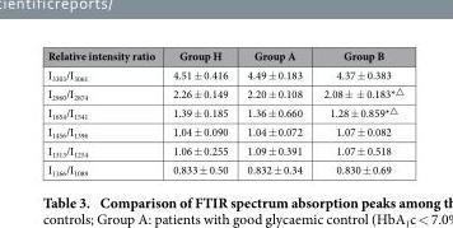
<table><thead><tr><td>Relative intensity ratio</td><td>Group H</td><td>Group A</td><td>Group B</td></tr></thead><tbody><tr><td>I<sub>3303</sub>/I<sub>3061</sub></td><td>4.51 ± 0.416</td><td>4.49 ± 0.183</td><td>4.37 ± 0.383</td></tr><tr><td>I<sub>2960</sub>/I<sub>2874</sub></td><td>2.26 ± 0.149</td><td>2.20 ± 0.108</td><td>2.08 ± ± 0.183*<sup>△</sup></td></tr><tr><td>I<sub>1654</sub>/I<sub>1541</sub></td><td>1.39 ± 0.185</td><td>1.36 ± 0.660</td><td>1.28 ± 0.859*<sup>△</sup></td></tr><tr><td>I<sub>1456</sub>/I<sub>1396</sub></td><td>1.04 ± 0.090</td><td>1.04 ± 0.072</td><td>1.07 ± 0.082</td></tr><tr><td>I<sub>1313</sub>/I<sub>1254</sub></td><td>1.06 ± 0.255</td><td>1.09 ± 0.391</td><td>1.07 ± 0.518</td></tr><tr><td>I<sub>1166</sub>/I<sub>1089</sub></td><td>0.833 ± 0.50</td><td>0.832 ± 0.34</td><td>0.830 ± 0.69</td></tr></tbody></table>